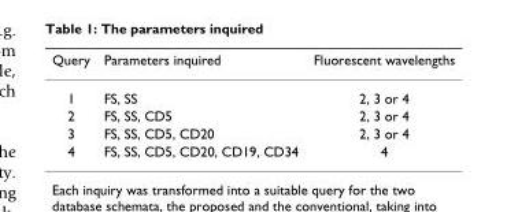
<table><thead><tr><td>Query</td><td>Parameters inquired</td><td>Fluorescent wavelengths</td></tr></thead><tbody><tr><td>1</td><td>FS, SS</td><td>2, 3 or 4</td></tr><tr><td>2</td><td>FS, SS, CD5</td><td>2, 3 or 4</td></tr><tr><td>3</td><td>FS, SS, CD5, CD20</td><td>2, 3 or 4</td></tr><tr><td>4</td><td>FS, SS, CD5, CD20, CD19, CD34</td><td>4</td></tr></tbody></table>